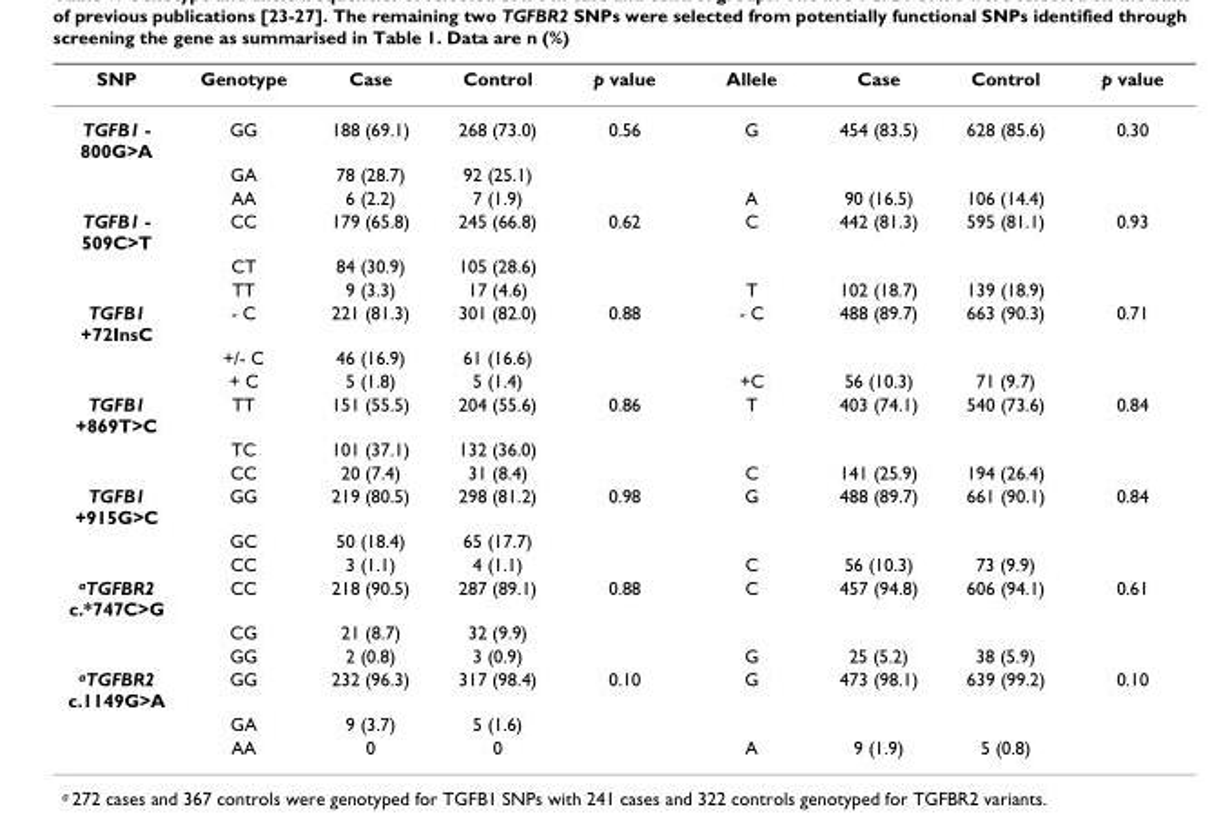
<table><thead><tr><td>SNP</td><td>Genotype</td><td>Case</td><td>Control</td><td>p value</td><td>Allele</td><td>Case</td><td>Control</td><td>p value</td></tr></thead><tbody><tr><td rowspan="3">TGFB1 - 800G&gt;A</td><td>GG</td><td>188 (69.1)</td><td>268 (73.0)</td><td>0.56</td><td>G</td><td>454 (83.5)</td><td>628 (85.6)</td><td>0.30</td></tr><tr><td>GA</td><td>78 (28.7)</td><td>92 (25.1)</td><td></td><td></td><td></td><td></td><td></td></tr><tr><td>AA</td><td>6 (2.2)</td><td>7 (1.9)</td><td></td><td>A</td><td>90 (16.5)</td><td>106 (14.4)</td><td></td></tr><tr><td rowspan="3">TGFB1 - 509C&gt;T</td><td>CC</td><td>179 (65.8)</td><td>245 (66.8)</td><td>0.62</td><td>C</td><td>442 (81.3)</td><td>595 (81.1)</td><td>0.93</td></tr><tr><td>CT</td><td>84 (30.9)</td><td>105 (28.6)</td><td></td><td></td><td></td><td></td><td></td></tr><tr><td>TT</td><td>9 (3.3)</td><td>17 (4.6)</td><td></td><td>T</td><td>102 (18.7)</td><td>139 (18.9)</td><td></td></tr><tr><td rowspan="3">TGFB1 +72InsC</td><td>- C</td><td>221 (81.3)</td><td>301 (82.0)</td><td>0.88</td><td>- C</td><td>488 (89.7)</td><td>663 (90.3)</td><td>0.71</td></tr><tr><td>+/- C</td><td>46 (16.9)</td><td>61 (16.6)</td><td></td><td></td><td></td><td></td><td></td></tr><tr><td>+ C</td><td>5 (1.8)</td><td>5 (1.4)</td><td></td><td>+C</td><td>56 (10.3)</td><td>71 (9.7)</td><td></td></tr><tr><td rowspan="3">TGFB1 +869T&gt;C</td><td>TT</td><td>151 (55.5)</td><td>204 (55.6)</td><td>0.86</td><td>T</td><td>403 (74.1)</td><td>540 (73.6)</td><td>0.84</td></tr><tr><td>TC</td><td>101 (37.1)</td><td>132 (36.0)</td><td></td><td></td><td></td><td></td><td></td></tr><tr><td>CC</td><td>20 (7.4)</td><td>31 (8.4)</td><td></td><td>C</td><td>141 (25.9)</td><td>194 (26.4)</td><td></td></tr><tr><td rowspan="3">TGFB1 +915G&gt;C</td><td>GG</td><td>219 (80.5)</td><td>298 (81.2)</td><td>0.98</td><td>G</td><td>488 (89.7)</td><td>661 (90.1)</td><td>0.84</td></tr><tr><td>GC</td><td>50 (18.4)</td><td>65 (17.7)</td><td></td><td></td><td></td><td></td><td></td></tr><tr><td>CC</td><td>3 (1.1)</td><td>4 (1.1)</td><td></td><td>C</td><td>56 (10.3)</td><td>73 (9.9)</td><td></td></tr><tr><td rowspan="3"><sup>a</sup>TGFBR2 c.*747C&gt;G</td><td>CC</td><td>218 (90.5)</td><td>287 (89.1)</td><td>0.88</td><td>C</td><td>457 (94.8)</td><td>606 (94.1)</td><td>0.61</td></tr><tr><td>CG</td><td>21 (8.7)</td><td>32 (9.9)</td><td></td><td></td><td></td><td></td><td></td></tr><tr><td>GG</td><td>2 (0.8)</td><td>3 (0.9)</td><td></td><td>G</td><td>25 (5.2)</td><td>38 (5.9)</td><td></td></tr><tr><td rowspan="3"><sup>a</sup>TGFBR2 c.1149G&gt;A</td><td>GG</td><td>232 (96.3)</td><td>317 (98.4)</td><td>0.10</td><td>G</td><td>473 (98.1)</td><td>639 (99.2)</td><td>0.10</td></tr><tr><td>GA</td><td>9 (3.7)</td><td>5 (1.6)</td><td></td><td></td><td></td><td></td><td></td></tr><tr><td>AA</td><td>0</td><td>0</td><td></td><td>A</td><td>9 (1.9)</td><td>5 (0.8)</td><td></td></tr></tbody></table>